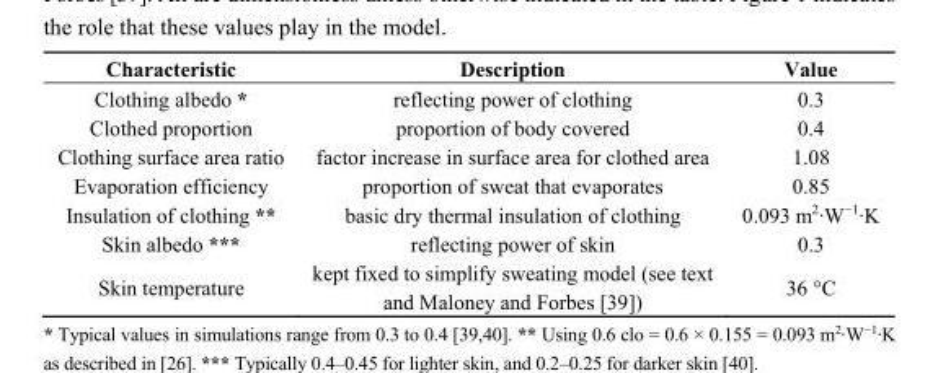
<table><thead><tr><td>Characteristic</td><td>Description</td><td>Value</td></tr></thead><tbody><tr><td>Clothing albedo *</td><td>reflecting power of clothing</td><td>0.3</td></tr><tr><td>Clothed proportion</td><td>proportion of body covered</td><td>0.4</td></tr><tr><td>Clothing surface area ratio</td><td>factor increase in surface area for clothed area</td><td>1.08</td></tr><tr><td>Evaporation efficiency</td><td>proportion of sweat that evaporates</td><td>0.85</td></tr><tr><td>Insulation of clothing **</td><td>basic dry thermal insulation of clothing</td><td>0.093 m2·W−1·K</td></tr><tr><td>Skin albedo ***</td><td>reflecting power of skin</td><td>0.3</td></tr><tr><td>Skin temperature</td><td>kept fixed to simplify sweating model (see text and Maloney and Forbes [39])</td><td>36 °C</td></tr></tbody></table>